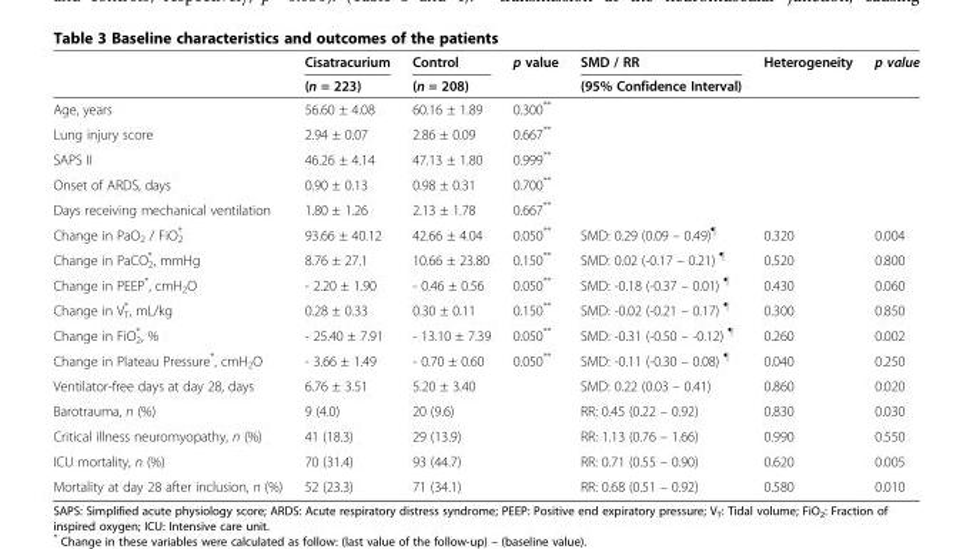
<table><thead><tr><td rowspan="2"></td><td rowspan="2">Cisatracurium (n = 223)</td><td rowspan="2">Control (n = 208)</td><td rowspan="2">p value</td><td rowspan="2">SMD / RR (95% Confidence Interval)</td><td rowspan="2">Heterogeneity</td><td rowspan="2">p value</td></tr><tr></tr></thead><tbody><tr><td>Age, years</td><td>56.60 ± 4.08</td><td>60.16 ± 1.89</td><td>0.300**</td><td></td><td></td><td></td></tr><tr><td>Lung injury score</td><td>2.94 ± 0.07</td><td>2.86 ± 0.09</td><td>0.667**</td><td></td><td></td><td></td></tr><tr><td>SAPS II</td><td>46.26 ± 4.14</td><td>47.13 ± 1.80</td><td>0.999**</td><td></td><td></td><td></td></tr><tr><td>Onset of ARDS, days</td><td>0.90 ± 0.13</td><td>0.98 ± 0.31</td><td>0.700**</td><td></td><td></td><td></td></tr><tr><td>Days receiving mechanical ventilation</td><td>1.80 ± 1.26</td><td>2.13 ± 1.78</td><td>0.667**</td><td></td><td></td><td></td></tr><tr><td>Change in PaO<sub>2</sub> / FiO<sub>2</sub> *</td><td>93.66 ± 40.12</td><td>42.66 ± 4.04</td><td>0.050**</td><td>SMD: 0.29 (0.09 – 0.49)<sup>¶</sup></td><td>0.320</td><td>0.004</td></tr><tr><td>Change in PaCO<sub>2</sub> *, mmHg</td><td>8.76 ± 27.1</td><td>10.66 ± 23.80</td><td>0.150**</td><td>SMD: 0.02 (-0.17 – 0.21) <sup>¶</sup></td><td>0.520</td><td>0.800</td></tr><tr><td>Change in PEEP*, cmH<sub>2</sub>O</td><td>- 2.20 ± 1.90</td><td>- 0.46 ± 0.56</td><td>0.050**</td><td>SMD: -0.18 (-0.37 – 0.01) <sup>¶</sup></td><td>0.430</td><td>0.060</td></tr><tr><td>Change in V<sub>T</sub> *, mL/kg</td><td>0.28 ± 0.33</td><td>0.30 ± 0.11</td><td>0.150**</td><td>SMD: -0.02 (-0.21 – 0.17) <sup>¶</sup></td><td>0.300</td><td>0.850</td></tr><tr><td>Change in FiO<sub>2</sub> *, %</td><td>- 25.40 ± 7.91</td><td>- 13.10 ± 7.39</td><td>0.050**</td><td>SMD: -0.31 (-0.50 – -0.12) <sup>¶</sup></td><td>0.260</td><td>0.002</td></tr><tr><td>Change in Plateau Pressure*, cmH<sub>2</sub>O</td><td>- 3.66 ± 1.49</td><td>- 0.70 ± 0.60</td><td>0.050**</td><td>SMD: -0.11 (-0.30 – 0.08) <sup>¶</sup></td><td>0.040</td><td>0.250</td></tr><tr><td>Ventilator-free days at day 28, days</td><td>6.76 ± 3.51</td><td>5.20 ± 3.40</td><td></td><td>SMD: 0.22 (0.03 – 0.41)</td><td>0.860</td><td>0.020</td></tr><tr><td>Barotrauma, n (%)</td><td>9 (4.0)</td><td>20 (9.6)</td><td></td><td>RR: 0.45 (0.22 – 0.92)</td><td>0.830</td><td>0.030</td></tr><tr><td>Critical illness neuromyopathy, n (%)</td><td>41 (18.3)</td><td>29 (13.9)</td><td></td><td>RR: 1.13 (0.76 – 1.66)</td><td>0.990</td><td>0.550</td></tr><tr><td>ICU mortality, n (%)</td><td>70 (31.4)</td><td>93 (44.7)</td><td></td><td>RR: 0.71 (0.55 – 0.90)</td><td>0.620</td><td>0.005</td></tr><tr><td>Mortality at day 28 after inclusion, n (%)</td><td>52 (23.3)</td><td>71 (34.1)</td><td></td><td>RR: 0.68 (0.51 – 0.92)</td><td>0.580</td><td>0.010</td></tr></tbody></table>